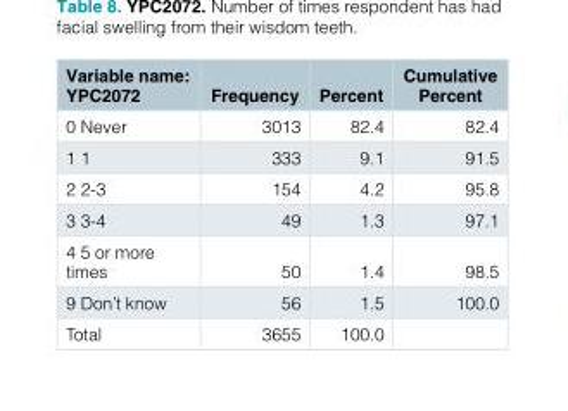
<table><thead><tr><td>Variable name: YPC2072</td><td>Frequency</td><td>Percent</td><td>Cumulative Percent</td></tr></thead><tbody><tr><td>0 Never</td><td>3013</td><td>82.4</td><td>82.4</td></tr><tr><td>1 1</td><td>333</td><td>9.1</td><td>91.5</td></tr><tr><td>2 2-3</td><td>154</td><td>4.2</td><td>95.8</td></tr><tr><td>3 3-4</td><td>49</td><td>1.3</td><td>97.1</td></tr><tr><td>4 5 or more times</td><td>50</td><td>1.4</td><td>98.5</td></tr><tr><td>9 Don’t know</td><td>56</td><td>1.5</td><td>100.0</td></tr><tr><td>Total</td><td>3655</td><td>100.0</td><td></td></tr></tbody></table>